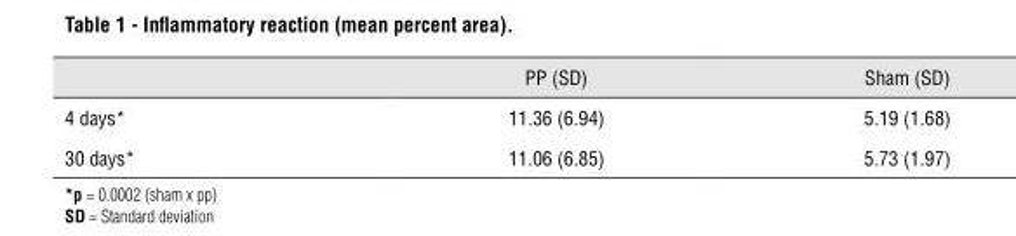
<table><thead><tr><td></td><td>PP (SD)</td><td>Sham (SD)</td></tr></thead><tbody><tr><td>4 days*</td><td>11.36 (6.94)</td><td>5.19 (1.68)</td></tr><tr><td>30 days*</td><td>11.06 (6.85)</td><td>5.73 (1.97)</td></tr></tbody></table>